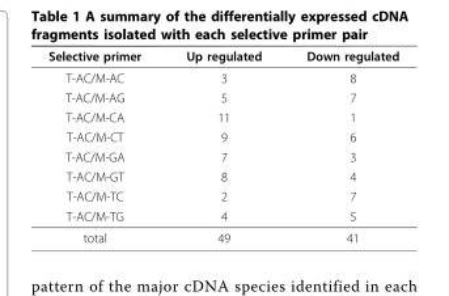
<table><thead><tr><td>Selective primer</td><td>Up regulated</td><td>Down regulated</td></tr></thead><tbody><tr><td>T-AC/M-AC</td><td>3</td><td>8</td></tr><tr><td>T-AC/M-AG</td><td>5</td><td>7</td></tr><tr><td>T-AC/M-CA</td><td>11</td><td>1</td></tr><tr><td>T-AC/M-CT</td><td>9</td><td>6</td></tr><tr><td>T-AC/M-GA</td><td>7</td><td>3</td></tr><tr><td>T-AC/M-GT</td><td>8</td><td>4</td></tr><tr><td>T-AC/M-TC</td><td>2</td><td>7</td></tr><tr><td>T-AC/M-TG</td><td>4</td><td>5</td></tr><tr><td>total</td><td>49</td><td>41</td></tr></tbody></table>